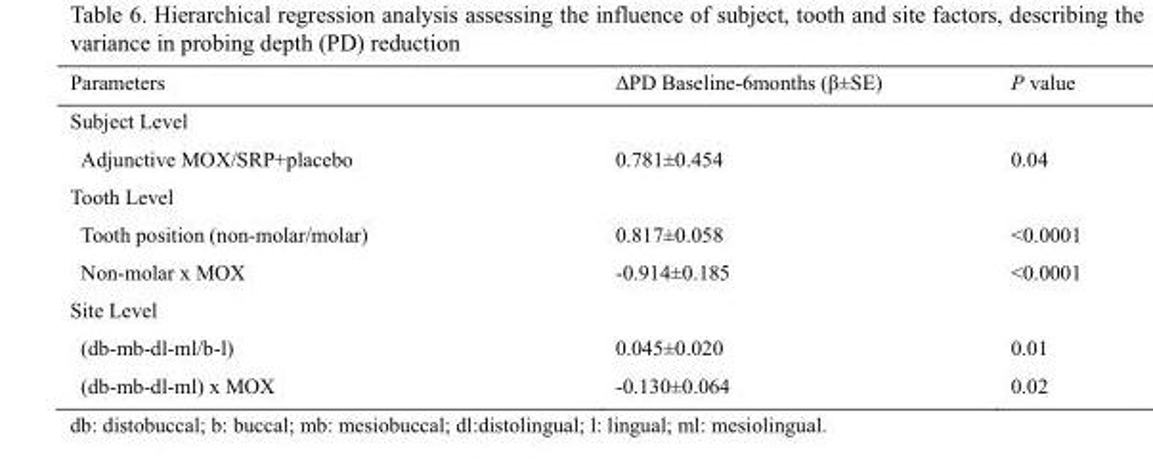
<table><thead><tr><td>Parameters</td><td>ΔPD Baseline-6months (β±SE)</td><td>P value</td></tr></thead><tbody><tr><td colspan="3">Subject Level</td></tr><tr><td>Adjunctive MOX/SRP+placebo</td><td>0.781±0.454</td><td>0.04</td></tr><tr><td colspan="3">Tooth Level</td></tr><tr><td>Tooth position (non-molar/molar)</td><td>0.817±0.058</td><td>&lt;0.0001</td></tr><tr><td>Non-molar x MOX</td><td>-0.914±0.185</td><td>&lt;0.0001</td></tr><tr><td colspan="3">Site Level</td></tr><tr><td>(db-mb-dl-ml/b-l)</td><td>0.045±0.020</td><td>0.01</td></tr><tr><td>(db-mb-dl-ml) x MOX</td><td>-0.130±0.064</td><td>0.02</td></tr></tbody></table>